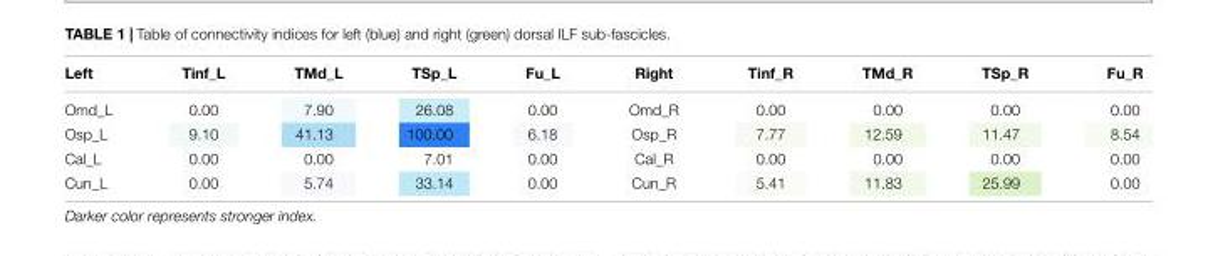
<table><thead><tr><td>Left</td><td>Tinf_L</td><td>TMd_L</td><td>TSp_L</td><td>Fu_L</td><td>Right</td><td>Tinf_R</td><td>TMd_R</td><td>TSp_R</td><td>Fu_R</td></tr></thead><tbody><tr><td>Omd_L</td><td>0.00</td><td>7.90</td><td>26.08</td><td>0.00</td><td>Omd_R</td><td>0.00</td><td>0.00</td><td>0.00</td><td>0.00</td></tr><tr><td>Osp_L</td><td>9.10</td><td>41.13</td><td>100.00</td><td>6.18</td><td>Osp_R</td><td>7.77</td><td>12.59</td><td>11.47</td><td>8.54</td></tr><tr><td>Cal_L</td><td>0.00</td><td>0.00</td><td>7.01</td><td>0.00</td><td>Cal_R</td><td>0.00</td><td>0.00</td><td>0.00</td><td>0.00</td></tr><tr><td>Cun_L</td><td>0.00</td><td>5.74</td><td>33.14</td><td>0.00</td><td>Cun_R</td><td>5.41</td><td>11.83</td><td>25.99</td><td>0.00</td></tr></tbody></table>